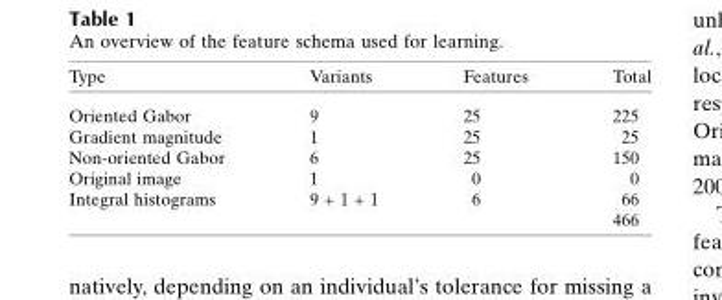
<table><thead><tr><td>Type</td><td>Variants</td><td>Features</td><td>Total</td></tr></thead><tbody><tr><td>Oriented Gabor</td><td>9</td><td>25</td><td>225</td></tr><tr><td>Gradient magnitude</td><td>1</td><td>25</td><td>25</td></tr><tr><td>Non-oriented Gabor</td><td>6</td><td>25</td><td>150</td></tr><tr><td>Original image</td><td>1</td><td>0</td><td>0</td></tr><tr><td rowspan="2">Integral histograms</td><td>9 + 1 + 1</td><td>6</td><td>66</td></tr><tr><td></td><td></td><td>466</td></tr></tbody></table>